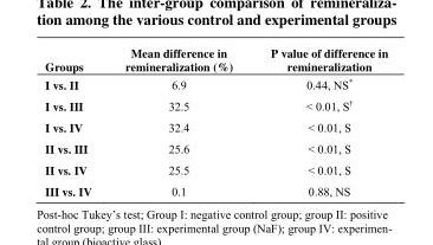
<table><tbody><tr><td>Groups</td><td>Mean difference in remineralization (%)</td><td>P value of difference in remineralization</td></tr><tr><td>I vs. II</td><td>6.9</td><td>0.44, NS*</td></tr><tr><td>I vs. III</td><td>32.5</td><td>&lt; 0.01, S<sup>†</sup></td></tr><tr><td>I vs. IV</td><td>32.4</td><td>&lt; 0.01, S</td></tr><tr><td>II vs. III</td><td>25.6</td><td>&lt; 0.01, S</td></tr><tr><td>II vs. IV</td><td>25.5</td><td>&lt; 0.01, S</td></tr><tr><td>III vs. IV</td><td>0.1</td><td>0.88, NS</td></tr></tbody></table>